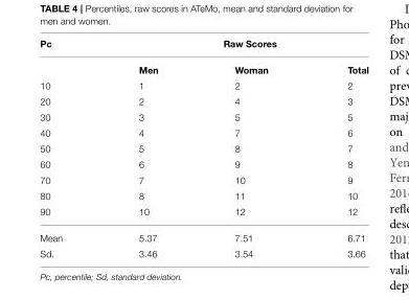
<table><thead><tr><td rowspan="2">Pc</td><td colspan="3">Raw Scores</td></tr><tr><td>Men</td><td>Woman</td><td>Total</td></tr></thead><tbody><tr><td>10</td><td>1</td><td>2</td><td>2</td></tr><tr><td>20</td><td>2</td><td>4</td><td>3</td></tr><tr><td>30</td><td>3</td><td>5</td><td>5</td></tr><tr><td>40</td><td>4</td><td>7</td><td>6</td></tr><tr><td>50</td><td>5</td><td>8</td><td>7</td></tr><tr><td>60</td><td>6</td><td>9</td><td>8</td></tr><tr><td>70</td><td>7</td><td>10</td><td>9</td></tr><tr><td>80</td><td>8</td><td>11</td><td>10</td></tr><tr><td>90</td><td>10</td><td>12</td><td>12</td></tr><tr><td>Mean</td><td>5.37</td><td>7.51</td><td>6.71</td></tr><tr><td>Sd.</td><td>3.46</td><td>3.54</td><td>3.66</td></tr></tbody></table>